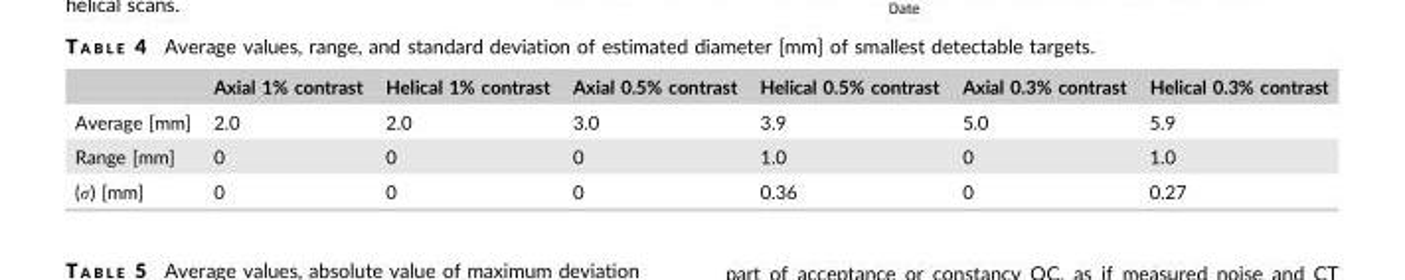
<table><thead><tr><td></td><td>Axial 1% contrast</td><td>Helical 1% contrast</td><td>Axial 0.5% contrast</td><td>Helical 0.5% contrast</td><td>Axial 0.3% contrast</td><td>Helical 0.3% contrast</td></tr></thead><tbody><tr><td>Average [mm]</td><td>2.0</td><td>2.0</td><td>3.0</td><td>3.9</td><td>5.0</td><td>5.9</td></tr><tr><td>Range [mm]</td><td>0</td><td>0</td><td>0</td><td>1.0</td><td>0</td><td>1.0</td></tr><tr><td>(σ) [mm]</td><td>0</td><td>0</td><td>0</td><td>0.36</td><td>0</td><td>0.27</td></tr></tbody></table>